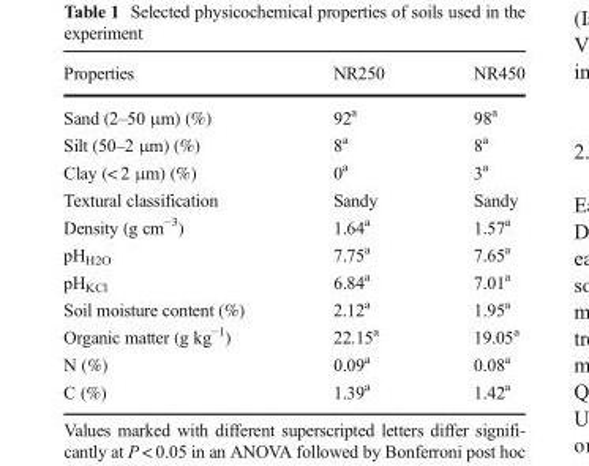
<table><thead><tr><td>Properties</td><td>NR250</td><td>NR450</td></tr></thead><tbody><tr><td>Sand (2–50 μm) (%)</td><td>92<sup>a</sup></td><td>98<sup>a</sup></td></tr><tr><td>Silt (50–2 μm) (%)</td><td>8<sup>a</sup></td><td>8<sup>a</sup></td></tr><tr><td>Clay (&lt; 2 μm) (%)</td><td>0<sup>a</sup></td><td>3<sup>a</sup></td></tr><tr><td>Textural classification</td><td>Sandy</td><td>Sandy</td></tr><tr><td>Density (g cm<sup>−3</sup>)</td><td>1.64<sup>a</sup></td><td>1.57<sup>a</sup></td></tr><tr><td>pH<sub>H2O</sub></td><td>7.75<sup>a</sup></td><td>7.65<sup>a</sup></td></tr><tr><td>pH<sub>KCl</sub></td><td>6.84<sup>a</sup></td><td>7.01<sup>a</sup></td></tr><tr><td>Soil moisture content (%)</td><td>2.12<sup>a</sup></td><td>1.95<sup>a</sup></td></tr><tr><td>Organic matter (g kg<sup>−1</sup>)</td><td>22.15<sup>a</sup></td><td>19.05<sup>a</sup></td></tr><tr><td>N (%)</td><td>0.09<sup>a</sup></td><td>0.08<sup>a</sup></td></tr><tr><td>C (%)</td><td>1.39<sup>a</sup></td><td>1.42<sup>a</sup></td></tr></tbody></table>